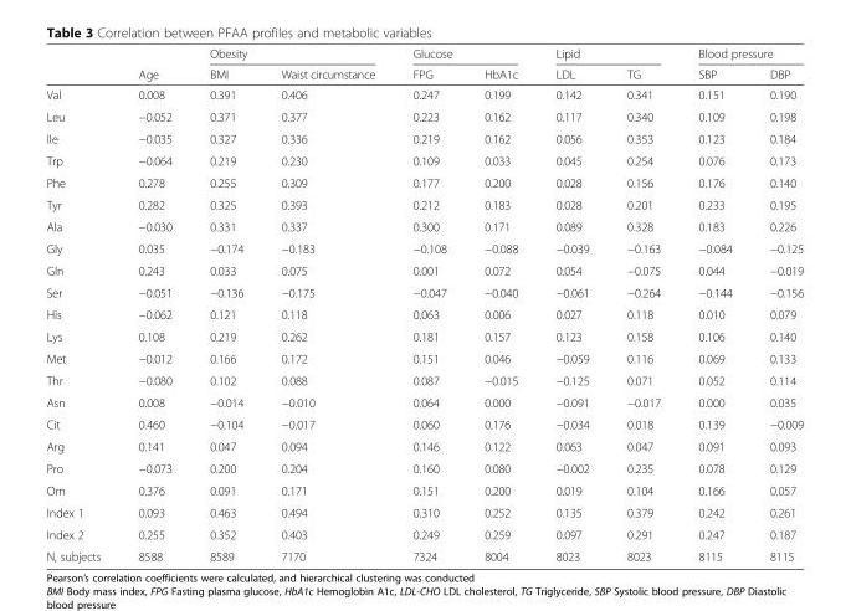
<table><thead><tr><td rowspan="2"></td><td rowspan="2">Age</td><td colspan="2">Obesity</td><td colspan="2">Glucose</td><td colspan="2">Lipid</td><td colspan="2">Blood pressure</td></tr><tr><td>BMI</td><td>Waist circumstance</td><td>FPG</td><td>HbA1c</td><td>LDL</td><td>TG</td><td>SBP</td><td>DBP</td></tr></thead><tbody><tr><td>Val</td><td>0.008</td><td>0.391</td><td>0.406</td><td>0.247</td><td>0.199</td><td>0.142</td><td>0.341</td><td>0.151</td><td>0.190</td></tr><tr><td>Leu</td><td>−0.052</td><td>0.371</td><td>0.377</td><td>0.223</td><td>0.162</td><td>0.117</td><td>0.340</td><td>0.109</td><td>0.198</td></tr><tr><td>Ile</td><td>−0.035</td><td>0.327</td><td>0.336</td><td>0.219</td><td>0.162</td><td>0.056</td><td>0.353</td><td>0.123</td><td>0.184</td></tr><tr><td>Trp</td><td>−0.064</td><td>0.219</td><td>0.230</td><td>0.109</td><td>0.033</td><td>0.045</td><td>0.254</td><td>0.076</td><td>0.173</td></tr><tr><td>Phe</td><td>0.278</td><td>0.255</td><td>0.309</td><td>0.177</td><td>0.200</td><td>0.028</td><td>0.156</td><td>0.176</td><td>0.140</td></tr><tr><td>Tyr</td><td>0.282</td><td>0.325</td><td>0.393</td><td>0.212</td><td>0.183</td><td>0.028</td><td>0.201</td><td>0.233</td><td>0.195</td></tr><tr><td>Ala</td><td>−0.030</td><td>0.331</td><td>0.337</td><td>0.300</td><td>0.171</td><td>0.089</td><td>0.328</td><td>0.183</td><td>0.226</td></tr><tr><td>Gly</td><td>0.035</td><td>−0.174</td><td>−0.183</td><td>−0.108</td><td>−0.088</td><td>−0.039</td><td>−0.163</td><td>−0.084</td><td>−0.125</td></tr><tr><td>Gln</td><td>0.243</td><td>0.033</td><td>0.075</td><td>0.001</td><td>0.072</td><td>0.054</td><td>−0.075</td><td>0.044</td><td>−0.019</td></tr><tr><td>Ser</td><td>−0.051</td><td>−0.136</td><td>−0.175</td><td>−0.047</td><td>−0.040</td><td>−0.061</td><td>−0.264</td><td>−0.144</td><td>−0.156</td></tr><tr><td>His</td><td>−0.062</td><td>0.121</td><td>0.118</td><td>0.063</td><td>0.006</td><td>0.027</td><td>0.118</td><td>0.010</td><td>0.079</td></tr><tr><td>Lys</td><td>0.108</td><td>0.219</td><td>0.262</td><td>0.181</td><td>0.157</td><td>0.123</td><td>0.158</td><td>0.106</td><td>0.140</td></tr><tr><td>Met</td><td>−0.012</td><td>0.166</td><td>0.172</td><td>0.151</td><td>0.046</td><td>−0.059</td><td>0.116</td><td>0.069</td><td>0.133</td></tr><tr><td>Thr</td><td>−0.080</td><td>0.102</td><td>0.088</td><td>0.087</td><td>−0.015</td><td>−0.125</td><td>0.071</td><td>0.052</td><td>0.114</td></tr><tr><td>Asn</td><td>0.008</td><td>−0.014</td><td>−0.010</td><td>0.064</td><td>0.000</td><td>−0.091</td><td>−0.017</td><td>0.000</td><td>0.035</td></tr><tr><td>Cit</td><td>0.460</td><td>−0.104</td><td>−0.017</td><td>0.060</td><td>0.176</td><td>−0.034</td><td>0.018</td><td>0.139</td><td>−0.009</td></tr><tr><td>Arg</td><td>0.141</td><td>0.047</td><td>0.094</td><td>0.146</td><td>0.122</td><td>0.063</td><td>0.047</td><td>0.091</td><td>0.093</td></tr><tr><td>Pro</td><td>−0.073</td><td>0.200</td><td>0.204</td><td>0.160</td><td>0.080</td><td>−0.002</td><td>0.235</td><td>0.078</td><td>0.129</td></tr><tr><td>Orn</td><td>0.376</td><td>0.091</td><td>0.171</td><td>0.151</td><td>0.200</td><td>0.019</td><td>0.104</td><td>0.166</td><td>0.057</td></tr><tr><td>Index 1</td><td>0.093</td><td>0.463</td><td>0.494</td><td>0.310</td><td>0.252</td><td>0.135</td><td>0.379</td><td>0.242</td><td>0.261</td></tr><tr><td>Index 2</td><td>0.255</td><td>0.352</td><td>0.403</td><td>0.249</td><td>0.259</td><td>0.097</td><td>0.291</td><td>0.247</td><td>0.187</td></tr><tr><td>N, subjects</td><td>8588</td><td>8589</td><td>7170</td><td>7324</td><td>8004</td><td>8023</td><td>8023</td><td>8115</td><td>8115</td></tr></tbody></table>